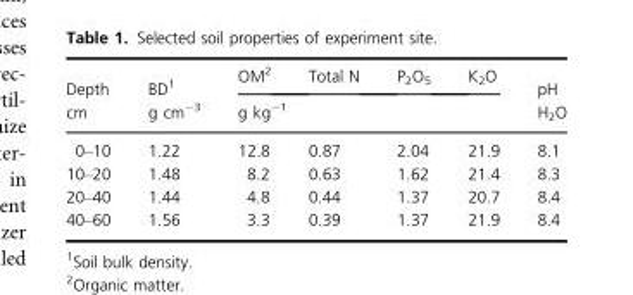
<table><thead><tr><td rowspan="2">Depth cm</td><td rowspan="2">BD<sup>1</sup> g cm<sup>−3</sup></td><td>OM<sup>2</sup></td><td>Total N</td><td>P<sub>2</sub>O<sub>5</sub></td><td>K<sub>2</sub>O</td><td rowspan="2">pH H<sub>2</sub>O</td></tr><tr><td colspan="4">g kg<sup>−1</sup></td></tr></thead><tbody><tr><td>0–10</td><td>1.22</td><td>12.8</td><td>0.87</td><td>2.04</td><td>21.9</td><td>8.1</td></tr><tr><td>10–20</td><td>1.48</td><td>8.2</td><td>0.63</td><td>1.62</td><td>21.4</td><td>8.3</td></tr><tr><td>20–40</td><td>1.44</td><td>4.8</td><td>0.44</td><td>1.37</td><td>20.7</td><td>8.4</td></tr><tr><td>40–60</td><td>1.56</td><td>3.3</td><td>0.39</td><td>1.37</td><td>21.9</td><td>8.4</td></tr></tbody></table>